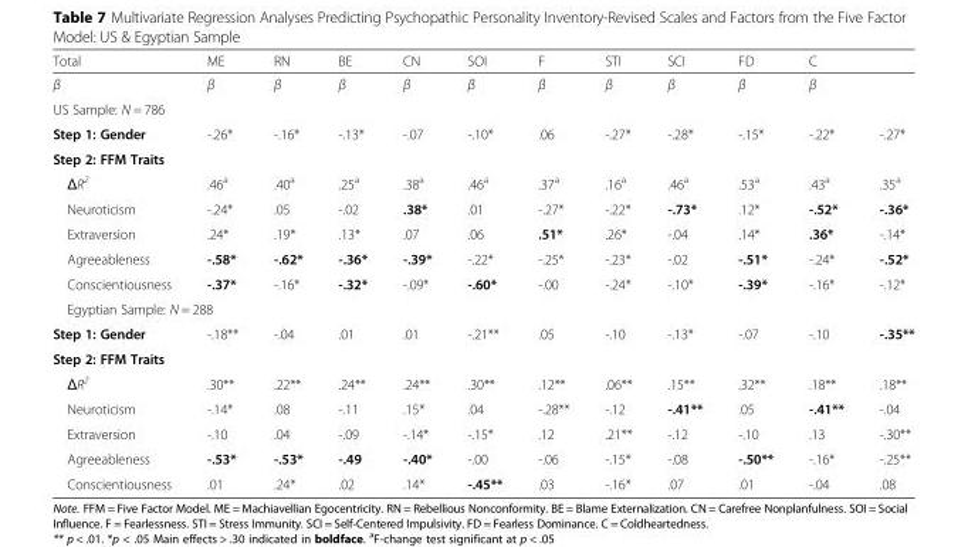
<table><thead><tr><td>Total</td><td>ME</td><td>RN</td><td>BE</td><td>CN</td><td>SOI</td><td>F</td><td>STI</td><td>SCI</td><td>FD</td><td>C</td><td></td></tr></thead><tbody><tr><td>β</td><td>β</td><td>β</td><td>β</td><td>β</td><td>β</td><td>β</td><td>β</td><td>β</td><td>β</td><td>β</td><td></td></tr><tr><td colspan="12">US Sample: N = 786</td></tr><tr><td>Step 1: Gender</td><td>-.26*</td><td>-.16*</td><td>-.13*</td><td>-.07</td><td>-.10*</td><td>.06</td><td>-.27*</td><td>-.28*</td><td>-.15*</td><td>-.22*</td><td>-.27*</td></tr><tr><td colspan="12">Step 2: FFM Traits</td></tr><tr><td>ΔR<sup>2</sup></td><td>.46<sup>a</sup></td><td>.40<sup>a</sup></td><td>.25<sup>a</sup></td><td>.38<sup>a</sup></td><td>.46<sup>a</sup></td><td>.37<sup>a</sup></td><td>.16<sup>a</sup></td><td>.46<sup>a</sup></td><td>.53<sup>a</sup></td><td>.43<sup>a</sup></td><td>.35<sup>a</sup></td></tr><tr><td>Neuroticism</td><td>-.24*</td><td>.05</td><td>-.02</td><td>.38*</td><td>.01</td><td>-.27*</td><td>-.22*</td><td>-.73*</td><td>.12*</td><td>-.52*</td><td>-.36*</td></tr><tr><td>Extraversion</td><td>.24*</td><td>.19*</td><td>.13*</td><td>.07</td><td>.06</td><td>.51*</td><td>.26*</td><td>-.04</td><td>.14*</td><td>.36*</td><td>-.14*</td></tr><tr><td>Agreeableness</td><td>-.58*</td><td>-.62*</td><td>-.36*</td><td>-.39*</td><td>-.22*</td><td>-.25*</td><td>-.23*</td><td>-.02</td><td>-.51*</td><td>-.24*</td><td>-.52*</td></tr><tr><td>Conscientiousness</td><td>-.37*</td><td>-.16*</td><td>-.32*</td><td>-.09*</td><td>-.60*</td><td>-.00</td><td>-.24*</td><td>-.10*</td><td>-.39*</td><td>-.16*</td><td>-.12*</td></tr><tr><td colspan="12">Egyptian Sample: N = 288</td></tr><tr><td>Step 1: Gender</td><td>-.18**</td><td>-.04</td><td>.01</td><td>.01</td><td>-.21**</td><td>.05</td><td>-.10</td><td>-.13*</td><td>-.07</td><td>-.10</td><td>-.35**</td></tr><tr><td colspan="12">Step 2: FFM Traits</td></tr><tr><td>ΔR<sup>2</sup></td><td>.30**</td><td>.22**</td><td>.24**</td><td>.24**</td><td>.30**</td><td>.12**</td><td>.06**</td><td>.15**</td><td>.32**</td><td>.18**</td><td>.18**</td></tr><tr><td>Neuroticism</td><td>-.14*</td><td>.08</td><td>-.11</td><td>.15*</td><td>.04</td><td>-.28**</td><td>-.12</td><td>-.41**</td><td>.05</td><td>-.41**</td><td>-.04</td></tr><tr><td>Extraversion</td><td>-.10</td><td>.04</td><td>-.09</td><td>-.14*</td><td>-.15*</td><td>.12</td><td>.21**</td><td>-.12</td><td>-.10</td><td>.13</td><td>-.30**</td></tr><tr><td>Agreeableness</td><td>-.53*</td><td>-.53*</td><td>-.49</td><td>-.40*</td><td>-.00</td><td>-.06</td><td>-.15*</td><td>-.08</td><td>-.50**</td><td>-.16*</td><td>-.25**</td></tr><tr><td>Conscientiousness</td><td>.01</td><td>.24*</td><td>.02</td><td>.14*</td><td>-.45**</td><td>.03</td><td>-.16*</td><td>.07</td><td>.01</td><td>-.04</td><td>.08</td></tr></tbody></table>